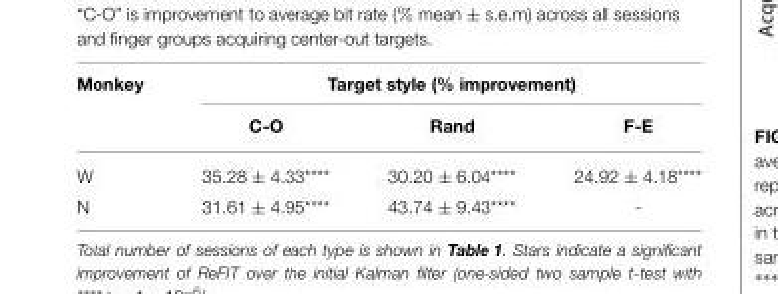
<table><thead><tr><td rowspan="2">Monkey</td><td colspan="3">Target style (% improvement)</td></tr><tr><td>C-O</td><td>Rand</td><td>F-E</td></tr></thead><tbody><tr><td>W</td><td>35.28 ± 4.33****</td><td>30.20 ± 6.04****</td><td>24.92 ± 4.18****</td></tr><tr><td>N</td><td>31.61 ± 4.95****</td><td>43.74 ± 9.43****</td><td>-</td></tr></tbody></table>